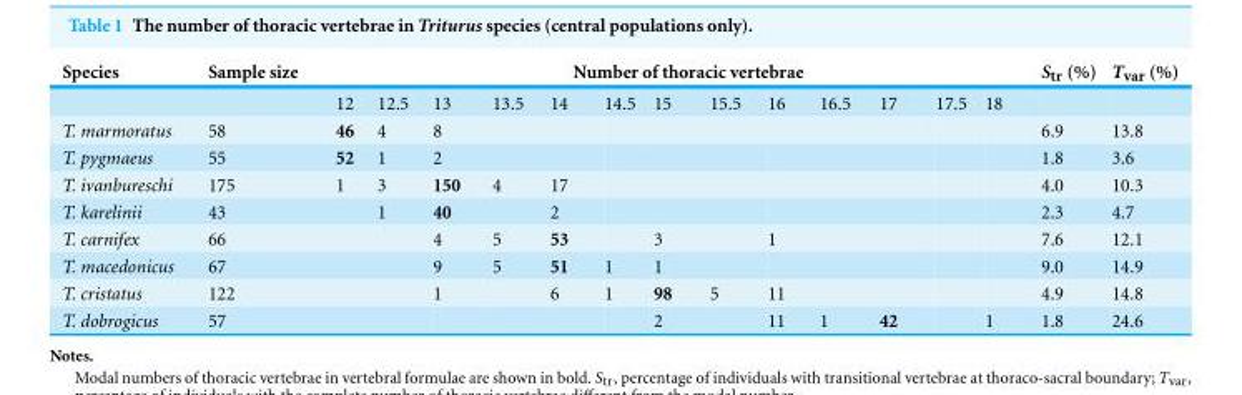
<table><thead><tr><td rowspan="2">Species</td><td rowspan="2">Sample size</td><td colspan="13">Number of thoracic vertebrae</td><td rowspan="2">S<sub>tr</sub> (%)</td><td rowspan="2">T<sub>var</sub> (%)</td></tr><tr><td>12</td><td>12.5</td><td>13</td><td>13.5</td><td>14</td><td>14.5</td><td>15</td><td>15.5</td><td>16</td><td>16.5</td><td>17</td><td>17.5</td><td>18</td></tr></thead><tbody><tr><td>T. marmoratus</td><td>58</td><td>46</td><td>4</td><td>8</td><td></td><td></td><td></td><td></td><td></td><td></td><td></td><td></td><td></td><td></td><td>6.9</td><td>13.8</td></tr><tr><td>T. pygmaeus</td><td>55</td><td>52</td><td>1</td><td>2</td><td></td><td></td><td></td><td></td><td></td><td></td><td></td><td></td><td></td><td></td><td>1.8</td><td>3.6</td></tr><tr><td>T. ivanbureschi</td><td>175</td><td>1</td><td>3</td><td>150</td><td>4</td><td>17</td><td></td><td></td><td></td><td></td><td></td><td></td><td></td><td></td><td>4.0</td><td>10.3</td></tr><tr><td>T. karelinii</td><td>43</td><td></td><td>1</td><td>40</td><td></td><td>2</td><td></td><td></td><td></td><td></td><td></td><td></td><td></td><td></td><td>2.3</td><td>4.7</td></tr><tr><td>T. carnifex</td><td>66</td><td></td><td></td><td>4</td><td>5</td><td>53</td><td></td><td>3</td><td></td><td>1</td><td></td><td></td><td></td><td></td><td>7.6</td><td>12.1</td></tr><tr><td>T. macedonicus</td><td>67</td><td></td><td></td><td>9</td><td>5</td><td>51</td><td>1</td><td>1</td><td></td><td></td><td></td><td></td><td></td><td></td><td>9.0</td><td>14.9</td></tr><tr><td>T. cristatus</td><td>122</td><td></td><td></td><td>1</td><td></td><td>6</td><td>1</td><td>98</td><td>5</td><td>11</td><td></td><td></td><td></td><td></td><td>4.9</td><td>14.8</td></tr><tr><td>T. dobrogicus</td><td>57</td><td></td><td></td><td></td><td></td><td></td><td></td><td>2</td><td></td><td>11</td><td>1</td><td>42</td><td></td><td>1</td><td>1.8</td><td>24.6</td></tr></tbody></table>